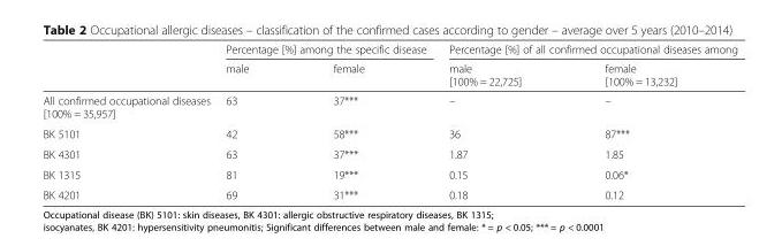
<table><thead><tr><td rowspan="2"></td><td colspan="2">Percentage [%] among the specific disease</td><td colspan="2">Percentage [%] of all confirmed occupational diseases among</td></tr><tr><td>male</td><td>female</td><td>male [100% = 22,725]</td><td>female [100% = 13,232]</td></tr></thead><tbody><tr><td>All confirmed occupational diseases [100% = 35,957]</td><td>63</td><td>37***</td><td>–</td><td>–</td></tr><tr><td>BK 5101</td><td>42</td><td>58***</td><td>36</td><td>87***</td></tr><tr><td>BK 4301</td><td>63</td><td>37***</td><td>1.87</td><td>1.85</td></tr><tr><td>BK 1315</td><td>81</td><td>19***</td><td>0.15</td><td>0.06*</td></tr><tr><td>BK 4201</td><td>69</td><td>31***</td><td>0.18</td><td>0.12</td></tr></tbody></table>